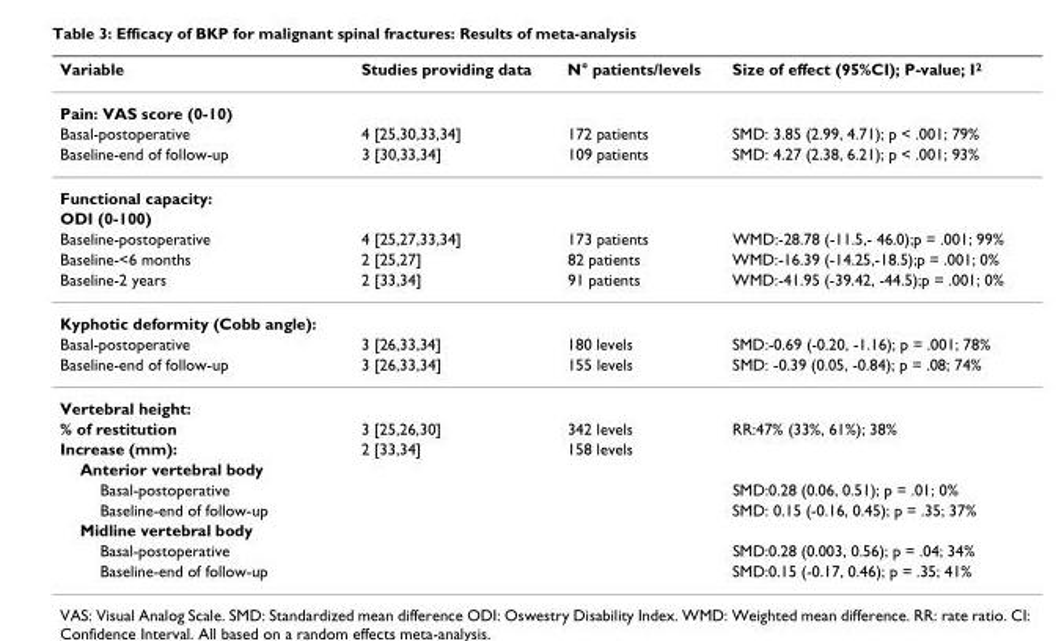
<table><thead><tr><td>Variable</td><td>Studies providing data</td><td>N° patients/levels</td><td>Size of effect (95%CI); P-value; I<sup>2</sup></td></tr></thead><tbody><tr><td colspan="4">Pain: VAS score (0-10)</td></tr><tr><td>Basal-postoperative</td><td>4 [25,30,33,34]</td><td>172 patients</td><td>SMD: 3.85 (2.99, 4.71); p &lt; .001; 79%</td></tr><tr><td>Baseline-end of follow-up</td><td>3 [30,33,34]</td><td>109 patients</td><td>SMD: 4.27 (2.38, 6.21); p &lt; .001; 93%</td></tr><tr><td colspan="4">Functional capacity:</td></tr><tr><td colspan="4">ODI (0-100)</td></tr><tr><td>Baseline-postoperative</td><td>4 [25,27,33,34]</td><td>173 patients</td><td>WMD:-28.78 (-11.5,- 46.0);p = .001; 99%</td></tr><tr><td>Baseline-&lt;6 months</td><td>2 [25,27]</td><td>82 patients</td><td>WMD:-16.39 (-14.25,-18.5);p = .001; 0%</td></tr><tr><td>Baseline-2 years</td><td>2 [33,34]</td><td>91 patients</td><td>WMD:-41.95 (-39.42, -44.5);p = .001; 0%</td></tr><tr><td colspan="4">Kyphotic deformity (Cobb angle):</td></tr><tr><td>Basal-postoperative</td><td>3 [26,33,34]</td><td>180 levels</td><td>SMD:-0.69 (-0.20, -1.16); p = .001; 78%</td></tr><tr><td>Baseline-end of follow-up</td><td>3 [26,33,34]</td><td>155 levels</td><td>SMD: -0.39 (0.05, -0.84); p = .08; 74%</td></tr><tr><td colspan="4">Vertebral height:</td></tr><tr><td>% of restitution</td><td>3 [25,26,30]</td><td>342 levels</td><td>RR:47% (33%, 61%); 38%</td></tr><tr><td>Increase (mm):</td><td>2 [33,34]</td><td>158 levels</td><td></td></tr><tr><td colspan="4">Anterior vertebral body</td></tr><tr><td>Basal-postoperative</td><td></td><td></td><td>SMD:0.28 (0.06, 0.51); p = .01; 0%</td></tr><tr><td>Baseline-end of follow-up</td><td></td><td></td><td>SMD: 0.15 (-0.16, 0.45); p = .35; 37%</td></tr><tr><td colspan="4">Midline vertebral body</td></tr><tr><td>Basal-postoperative</td><td></td><td></td><td>SMD:0.28 (0.003, 0.56); p = .04; 34%</td></tr><tr><td>Baseline-end of follow-up</td><td></td><td></td><td>SMD:0.15 (-0.17, 0.46); p = .35; 41%</td></tr></tbody></table>